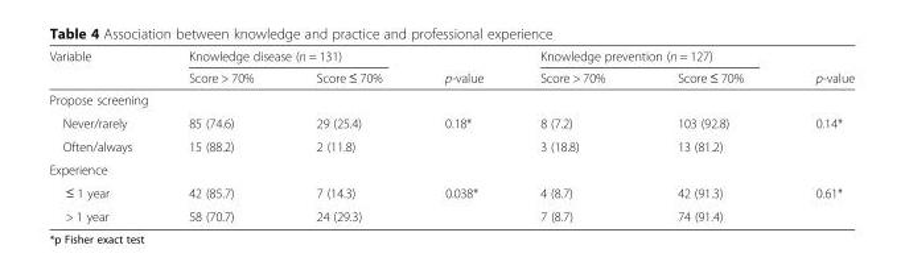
<table><thead><tr><td rowspan="2">Variable</td><td colspan="2">Knowledge disease (n = 131)</td><td rowspan="2">p-value</td><td colspan="2">Knowledge prevention (n = 127)</td><td rowspan="2">p-value</td></tr><tr><td>Score &gt; 70%</td><td>Score ≤ 70%</td><td>Score &gt; 70%</td><td>Score ≤ 70%</td></tr></thead><tbody><tr><td colspan="7">Propose screening</td></tr><tr><td>Never/rarely</td><td>85 (74.6)</td><td>29 (25.4)</td><td>0.18*</td><td>8 (7.2)</td><td>103 (92.8)</td><td>0.14*</td></tr><tr><td>Often/always</td><td>15 (88.2)</td><td>2 (11.8)</td><td></td><td>3 (18.8)</td><td>13 (81.2)</td><td></td></tr><tr><td colspan="7">Experience</td></tr><tr><td>≤ 1 year</td><td>42 (85.7)</td><td>7 (14.3)</td><td>0.038*</td><td>4 (8.7)</td><td>42 (91.3)</td><td>0.61*</td></tr><tr><td>&gt; 1 year</td><td>58 (70.7)</td><td>24 (29.3)</td><td></td><td>7 (8.7)</td><td>74 (91.4)</td><td></td></tr></tbody></table>